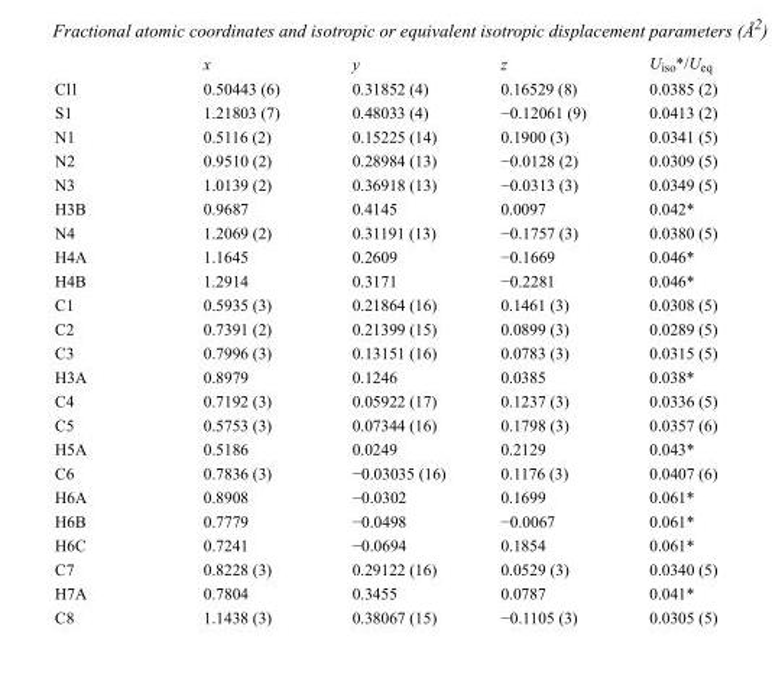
<table><thead><tr><td></td><td>x</td><td>y</td><td>z</td><td>U<sub>iso</sub>*/U<sub>eq</sub></td></tr></thead><tbody><tr><td>Cl1</td><td>0.50443 (6)</td><td>0.31852 (4)</td><td>0.16529 (8)</td><td>0.0385 (2)</td></tr><tr><td>S1</td><td>1.21803 (7)</td><td>0.48033 (4)</td><td>−0.12061 (9)</td><td>0.0413 (2)</td></tr><tr><td>N1</td><td>0.5116 (2)</td><td>0.15225 (14)</td><td>0.1900 (3)</td><td>0.0341 (5)</td></tr><tr><td>N2</td><td>0.9510 (2)</td><td>0.28984 (13)</td><td>−0.0128 (2)</td><td>0.0309 (5)</td></tr><tr><td>N3</td><td>1.0139 (2)</td><td>0.36918 (13)</td><td>−0.0313 (3)</td><td>0.0349 (5)</td></tr><tr><td>H3B</td><td>0.9687</td><td>0.4145</td><td>0.0097</td><td>0.042*</td></tr><tr><td>N4</td><td>1.2069 (2)</td><td>0.31191 (13)</td><td>−0.1757 (3)</td><td>0.0380 (5)</td></tr><tr><td>H4A</td><td>1.1645</td><td>0.2609</td><td>−0.1669</td><td>0.046*</td></tr><tr><td>H4B</td><td>1.2914</td><td>0.3171</td><td>−0.2281</td><td>0.046*</td></tr><tr><td>C1</td><td>0.5935 (3)</td><td>0.21864 (16)</td><td>0.1461 (3)</td><td>0.0308 (5)</td></tr><tr><td>C2</td><td>0.7391 (2)</td><td>0.21399 (15)</td><td>0.0899 (3)</td><td>0.0289 (5)</td></tr><tr><td>C3</td><td>0.7996 (3)</td><td>0.13151 (16)</td><td>0.0783 (3)</td><td>0.0315 (5)</td></tr><tr><td>H3A</td><td>0.8979</td><td>0.1246</td><td>0.0385</td><td>0.038*</td></tr><tr><td>C4</td><td>0.7192 (3)</td><td>0.05922 (17)</td><td>0.1237 (3)</td><td>0.0336 (5)</td></tr><tr><td>C5</td><td>0.5753 (3)</td><td>0.07344 (16)</td><td>0.1798 (3)</td><td>0.0357 (6)</td></tr><tr><td>H5A</td><td>0.5186</td><td>0.0249</td><td>0.2129</td><td>0.043*</td></tr><tr><td>C6</td><td>0.7836 (3)</td><td>−0.03035 (16)</td><td>0.1176 (3)</td><td>0.0407 (6)</td></tr><tr><td>H6A</td><td>0.8908</td><td>−0.0302</td><td>0.1699</td><td>0.061*</td></tr><tr><td>H6B</td><td>0.7779</td><td>−0.0498</td><td>−0.0067</td><td>0.061*</td></tr><tr><td>H6C</td><td>0.7241</td><td>−0.0694</td><td>0.1854</td><td>0.061*</td></tr><tr><td>C7</td><td>0.8228 (3)</td><td>0.29122 (16)</td><td>0.0529 (3)</td><td>0.0340 (5)</td></tr><tr><td>H7A</td><td>0.7804</td><td>0.3455</td><td>0.0787</td><td>0.041*</td></tr><tr><td>C8</td><td>1.1438 (3)</td><td>0.38067 (15)</td><td>−0.1105 (3)</td><td>0.0305 (5)</td></tr></tbody></table>